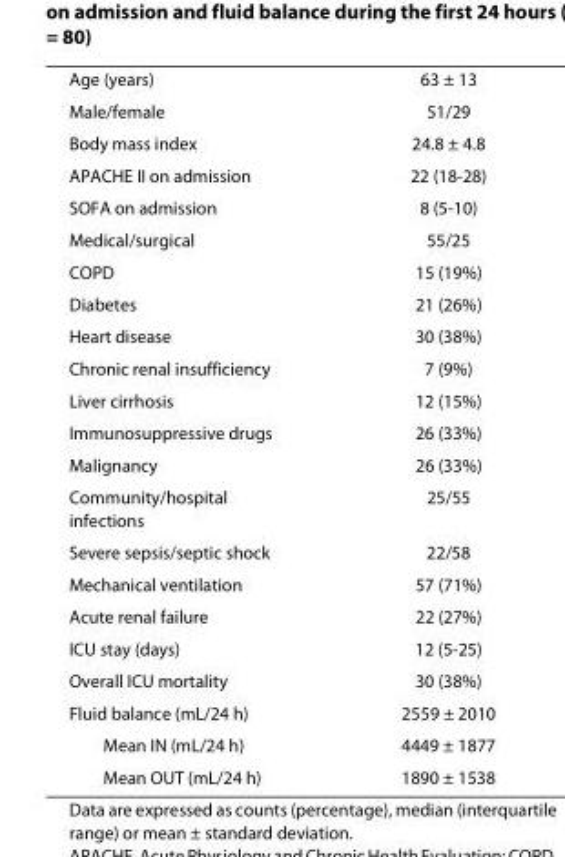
<table><tbody><tr><td>Age (years)</td><td>63 ± 13</td></tr><tr><td>Male/female</td><td>51/29</td></tr><tr><td>Body mass index</td><td>24.8 ± 4.8</td></tr><tr><td>APACHE II on admission</td><td>22 (18-28)</td></tr><tr><td>SOFA on admission</td><td>8 (5-10)</td></tr><tr><td>Medical/surgical</td><td>55/25</td></tr><tr><td>COPD</td><td>15 (19%)</td></tr><tr><td>Diabetes</td><td>21 (26%)</td></tr><tr><td>Heart disease</td><td>30 (38%)</td></tr><tr><td>Chronic renal insufficiency</td><td>7 (9%)</td></tr><tr><td>Liver cirrhosis</td><td>12 (15%)</td></tr><tr><td>Immunosuppressive drugs</td><td>26 (33%)</td></tr><tr><td>Malignancy</td><td>26 (33%)</td></tr><tr><td>Community/hospital infections</td><td>25/55</td></tr><tr><td>Severe sepsis/septic shock</td><td>22/58</td></tr><tr><td>Mechanical ventilation</td><td>57 (71%)</td></tr><tr><td>Acute renal failure</td><td>22 (27%)</td></tr><tr><td>ICU stay (days)</td><td>12 (5-25)</td></tr><tr><td>Overall ICU mortality</td><td>30 (38%)</td></tr><tr><td>Fluid balance (mL/24 h)</td><td>2559 ± 2010</td></tr><tr><td>Mean IN (mL/24 h)</td><td>4449 ± 1877</td></tr><tr><td>Mean OUT (mL/24 h)</td><td>1890 ± 1538</td></tr></tbody></table>